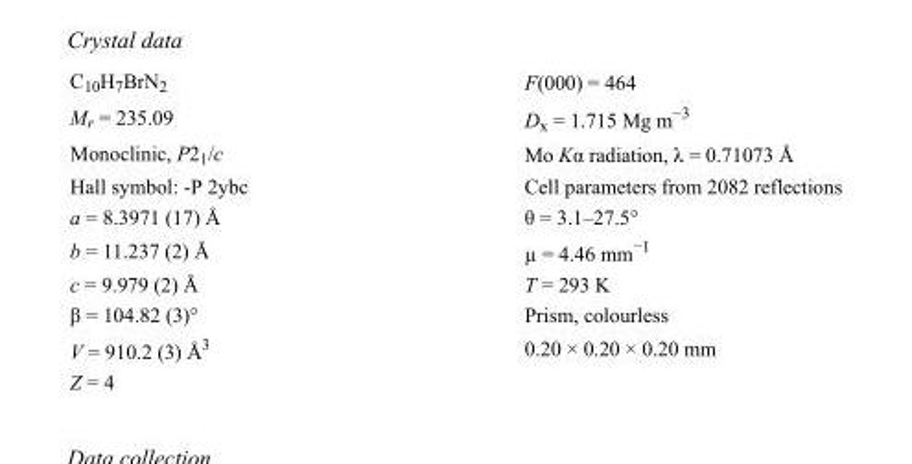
<table><tbody><tr><td>C<sub>10</sub>H<sub>7</sub>BrN<sub>2</sub></td><td>F(000) = 464</td></tr><tr><td>M<sub>r</sub> = 235.09</td><td>D<sub>x</sub> = 1.715 Mg m<sup>−3</sup></td></tr><tr><td>Monoclinic, P2<sub>1</sub>/c</td><td>Mo Kα radiation, λ = 0.71073 Å</td></tr><tr><td>Hall symbol: -P 2ybc</td><td>Cell parameters from 2082 reflections</td></tr><tr><td>a = 8.3971 (17) Å</td><td>θ = 3.1–27.5°</td></tr><tr><td>b = 11.237 (2) Å</td><td>µ = 4.46 mm<sup>−1</sup></td></tr><tr><td>c = 9.979 (2) Å</td><td>T = 293 K</td></tr><tr><td>β = 104.82 (3)°</td><td>Prism, colourless</td></tr><tr><td>V = 910.2 (3) Å<sup>3</sup></td><td>0.20 × 0.20 × 0.20 mm</td></tr><tr><td>Z = 4</td><td></td></tr></tbody></table>